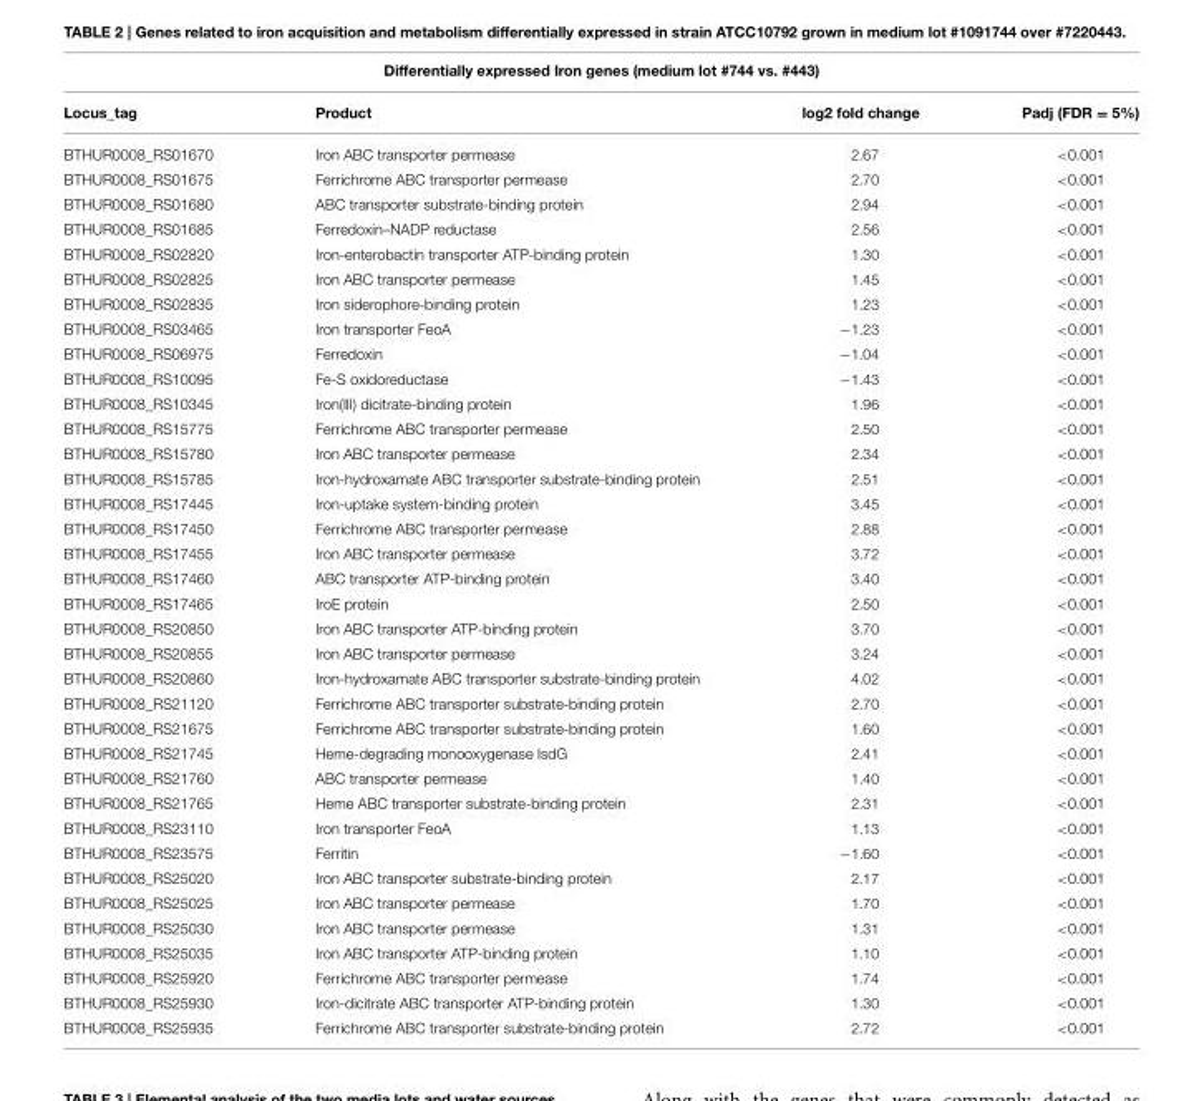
<table><thead><tr><td colspan="4">Differentially expressed Iron genes (medium lot #744 vs. #443)</td></tr><tr><td>Locus_tag</td><td>Product</td><td>log2 fold change</td><td>Padj (FDR = 5%)</td></tr></thead><tbody><tr><td>BTHUR0008_RS01670</td><td>Iron ABC transporter permease</td><td>2.67</td><td>&lt;0.001</td></tr><tr><td>BTHUR0008_RS01675</td><td>Ferrichrome ABC transporter permease</td><td>2.70</td><td>&lt;0.001</td></tr><tr><td>BTHUR0008_RS01680</td><td>ABC transporter substrate-binding protein</td><td>2.94</td><td>&lt;0.001</td></tr><tr><td>BTHUR0008_RS01685</td><td>Ferredoxin–NADP reductase</td><td>2.56</td><td>&lt;0.001</td></tr><tr><td>BTHUR0008_RS02820</td><td>Iron-enterobactin transporter ATP-binding protein</td><td>1.30</td><td>&lt;0.001</td></tr><tr><td>BTHUR0008_RS02825</td><td>Iron ABC transporter permease</td><td>1.45</td><td>&lt;0.001</td></tr><tr><td>BTHUR0008_RS02835</td><td>Iron siderophore-binding protein</td><td>1.23</td><td>&lt;0.001</td></tr><tr><td>BTHUR0008_RS03465</td><td>Iron transporter FeoA</td><td>−1.23</td><td>&lt;0.001</td></tr><tr><td>BTHUR0008_RS06975</td><td>Ferredoxin</td><td>−1.04</td><td>&lt;0.001</td></tr><tr><td>BTHUR0008_RS10095</td><td>Fe-S oxidoreductase</td><td>−1.43</td><td>&lt;0.001</td></tr><tr><td>BTHUR0008_RS10345</td><td>Iron(III) dicitrate-binding protein</td><td>1.96</td><td>&lt;0.001</td></tr><tr><td>BTHUR0008_RS15775</td><td>Ferrichrome ABC transporter permease</td><td>2.50</td><td>&lt;0.001</td></tr><tr><td>BTHUR0008_RS15780</td><td>Iron ABC transporter permease</td><td>2.34</td><td>&lt;0.001</td></tr><tr><td>BTHUR0008_RS15785</td><td>Iron-hydroxamate ABC transporter substrate-binding protein</td><td>2.51</td><td>&lt;0.001</td></tr><tr><td>BTHUR0008_RS17445</td><td>Iron-uptake system-binding protein</td><td>3.45</td><td>&lt;0.001</td></tr><tr><td>BTHUR0008_RS17450</td><td>Ferrichrome ABC transporter permease</td><td>2.88</td><td>&lt;0.001</td></tr><tr><td>BTHUR0008_RS17455</td><td>Iron ABC transporter permease</td><td>3.72</td><td>&lt;0.001</td></tr><tr><td>BTHUR0008_RS17460</td><td>ABC transporter ATP-binding protein</td><td>3.40</td><td>&lt;0.001</td></tr><tr><td>BTHUR0008_RS17465</td><td>IroE protein</td><td>2.50</td><td>&lt;0.001</td></tr><tr><td>BTHUR0008_RS20850</td><td>Iron ABC transporter ATP-binding protein</td><td>3.70</td><td>&lt;0.001</td></tr><tr><td>BTHUR0008_RS20855</td><td>Iron ABC transporter permease</td><td>3.24</td><td>&lt;0.001</td></tr><tr><td>BTHUR0008_RS20860</td><td>Iron-hydroxamate ABC transporter substrate-binding protein</td><td>4.02</td><td>&lt;0.001</td></tr><tr><td>BTHUR0008_RS21120</td><td>Ferrichrome ABC transporter substrate-binding protein</td><td>2.70</td><td>&lt;0.001</td></tr><tr><td>BTHUR0008_RS21675</td><td>Ferrichrome ABC transporter substrate-binding protein</td><td>1.60</td><td>&lt;0.001</td></tr><tr><td>BTHUR0008_RS21745</td><td>Heme-degrading monooxygenase IsdG</td><td>2.41</td><td>&lt;0.001</td></tr><tr><td>BTHUR0008_RS21760</td><td>ABC transporter permease</td><td>1.40</td><td>&lt;0.001</td></tr><tr><td>BTHUR0008_RS21765</td><td>Heme ABC transporter substrate-binding protein</td><td>2.31</td><td>&lt;0.001</td></tr><tr><td>BTHUR0008_RS23110</td><td>Iron transporter FeoA</td><td>1.13</td><td>&lt;0.001</td></tr><tr><td>BTHUR0008_RS23575</td><td>Ferritin</td><td>−1.60</td><td>&lt;0.001</td></tr><tr><td>BTHUR0008_RS25020</td><td>Iron ABC transporter substrate-binding protein</td><td>2.17</td><td>&lt;0.001</td></tr><tr><td>BTHUR0008_RS25025</td><td>Iron ABC transporter permease</td><td>1.70</td><td>&lt;0.001</td></tr><tr><td>BTHUR0008_RS25030</td><td>Iron ABC transporter permease</td><td>1.31</td><td>&lt;0.001</td></tr><tr><td>BTHUR0008_RS25035</td><td>Iron ABC transporter ATP-binding protein</td><td>1.10</td><td>&lt;0.001</td></tr><tr><td>BTHUR0008_RS25920</td><td>Ferrichrome ABC transporter permease</td><td>1.74</td><td>&lt;0.001</td></tr><tr><td>BTHUR0008_RS25930</td><td>Iron-dicitrate ABC transporter ATP-binding protein</td><td>1.30</td><td>&lt;0.001</td></tr><tr><td>BTHUR0008_RS25935</td><td>Ferrichrome ABC transporter substrate-binding protein</td><td>2.72</td><td>&lt;0.001</td></tr></tbody></table>